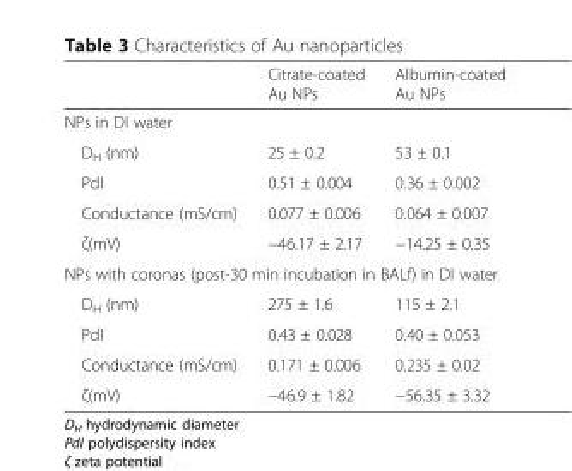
<table><thead><tr><td></td><td>Citrate-coated Au NPs</td><td>Albumin-coated Au NPs</td></tr></thead><tbody><tr><td colspan="3">NPs in DI water</td></tr><tr><td>D<sub>H</sub> (nm)</td><td>25 ± 0.2</td><td>53 ± 0.1</td></tr><tr><td>PdI</td><td>0.51 ± 0.004</td><td>0.36 ± 0.002</td></tr><tr><td>Conductance (mS/cm)</td><td>0.077 ± 0.006</td><td>0.064 ± 0.007</td></tr><tr><td>ζ(mV)</td><td>−46.17 ± 2.17</td><td>−14.25 ± 0.35</td></tr><tr><td colspan="3">NPs with coronas (post-30 min incubation in BALf) in DI water</td></tr><tr><td>D<sub>H</sub> (nm)</td><td>275 ± 1.6</td><td>115 ± 2.1</td></tr><tr><td>PdI</td><td>0.43 ± 0.028</td><td>0.40 ± 0.053</td></tr><tr><td>Conductance (mS/cm)</td><td>0.171 ± 0.006</td><td>0.235 ± 0.02</td></tr><tr><td>ζ(mV)</td><td>−46.9 ± 1.82</td><td>−56.35 ± 3.32</td></tr></tbody></table>